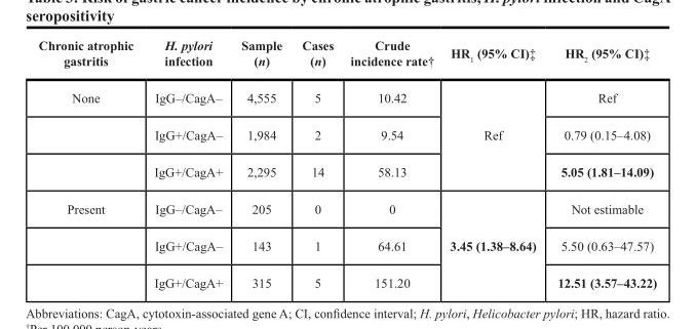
<table><thead><tr><td>Chronic atrophic gastritis</td><td>H. pylori infection</td><td>Sample (n)</td><td>Cases (n)</td><td>Crude incidence rate†</td><td>HR<sub>1</sub> (95% CI)‡</td><td>HR<sub>2</sub> (95% CI)‡</td></tr></thead><tbody><tr><td rowspan="3">None</td><td>IgG–/CagA–</td><td>4,555</td><td>5</td><td>10.42</td><td rowspan="3">Ref</td><td>Ref</td></tr><tr><td>IgG+/CagA–</td><td>1,984</td><td>2</td><td>9.54</td><td>0.79 (0.15–4.08)</td></tr><tr><td>IgG+/CagA+</td><td>2,295</td><td>14</td><td>58.13</td><td>5.05 (1.81–14.09)</td></tr><tr><td rowspan="3">Present</td><td>IgG–/CagA–</td><td>205</td><td>0</td><td>0</td><td rowspan="3">3.45 (1.38–8.64)</td><td>Not estimable</td></tr><tr><td>IgG+/CagA–</td><td>143</td><td>1</td><td>64.61</td><td>5.50 (0.63–47.57)</td></tr><tr><td>IgG+/CagA+</td><td>315</td><td>5</td><td>151.20</td><td>12.51 (3.57–43.22)</td></tr></tbody></table>